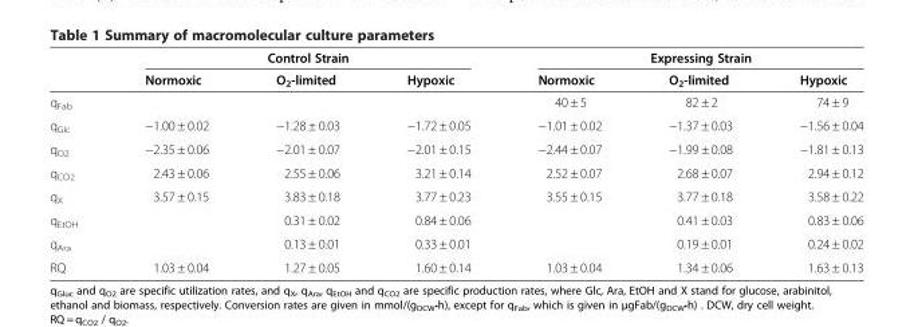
<table><thead><tr><td rowspan="2"></td><td rowspan="2">Normoxic</td><td rowspan="2">Control Strain O<sub>2</sub>-limited</td><td rowspan="2">Hypoxic</td><td rowspan="2">Normoxic</td><td rowspan="2">Expressing Strain O<sub>2</sub>-limited</td><td rowspan="2">Hypoxic</td></tr><tr></tr></thead><tbody><tr><td>q<sub>Fab</sub></td><td></td><td></td><td></td><td>40 ± 5</td><td>82 ± 2</td><td>74 ± 9</td></tr><tr><td>q<sub>Glc</sub></td><td>−1.00 ± 0.02</td><td>−1.28 ± 0.03</td><td>−1.72 ± 0.05</td><td>−1.01 ± 0.02</td><td>−1.37 ± 0.03</td><td>−1.56 ± 0.04</td></tr><tr><td>q<sub>O2</sub></td><td>−2.35 ± 0.06</td><td>−2.01 ± 0.07</td><td>−2.01 ± 0.15</td><td>−2.44 ± 0.07</td><td>−1.99 ± 0.08</td><td>−1.81 ± 0.13</td></tr><tr><td>q<sub>CO2</sub></td><td>2.43 ± 0.06</td><td>2.55 ± 0.06</td><td>3.21 ± 0.14</td><td>2.52 ± 0.07</td><td>2.68 ± 0.07</td><td>2.94 ± 0.12</td></tr><tr><td>q<sub>X</sub></td><td>3.57 ± 0.15</td><td>3.83 ± 0.18</td><td>3.77 ± 0.23</td><td>3.55 ± 0.15</td><td>3.77 ± 0.18</td><td>3.58 ± 0.22</td></tr><tr><td>q<sub>EtOH</sub></td><td></td><td>0.31 ± 0.02</td><td>0.84 ± 0.06</td><td></td><td>0.41 ± 0.03</td><td>0.83 ± 0.06</td></tr><tr><td>q<sub>Ara</sub></td><td></td><td>0.13 ± 0.01</td><td>0.33 ± 0.01</td><td></td><td>0.19 ± 0.01</td><td>0.24 ± 0.02</td></tr><tr><td>RQ</td><td>1.03 ± 0.04</td><td>1.27 ± 0.05</td><td>1.60 ± 0.14</td><td>1.03 ± 0.04</td><td>1.34 ± 0.06</td><td>1.63 ± 0.13</td></tr></tbody></table>